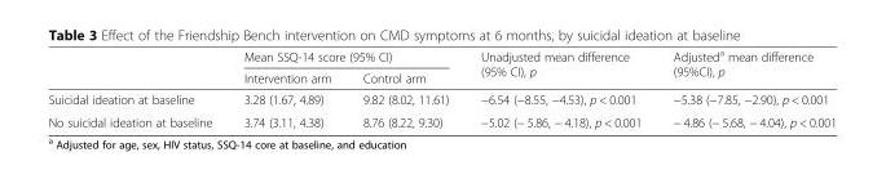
<table><thead><tr><td rowspan="2"></td><td colspan="2">Mean SSQ-14 score (95% CI)</td><td rowspan="2">Unadjusted mean difference (95% CI), p</td><td rowspan="2">Adjusted<sup>a</sup> mean difference (95%CI), p</td></tr><tr><td>Intervention arm</td><td>Control arm</td></tr></thead><tbody><tr><td>Suicidal ideation at baseline</td><td>3.28 (1.67, 4.89)</td><td>9.82 (8.02, 11.61)</td><td>−6.54 (−8.55, −4.53), p &lt; 0.001</td><td>−5.38 (−7.85, −2.90), p &lt; 0.001</td></tr><tr><td>No suicidal ideation at baseline</td><td>3.74 (3.11, 4.38)</td><td>8.76 (8.22, 9.30)</td><td>−5.02 (− 5.86, − 4.18), p &lt; 0.001</td><td>− 4.86 (− 5.68, − 4.04), p &lt; 0.001</td></tr></tbody></table>